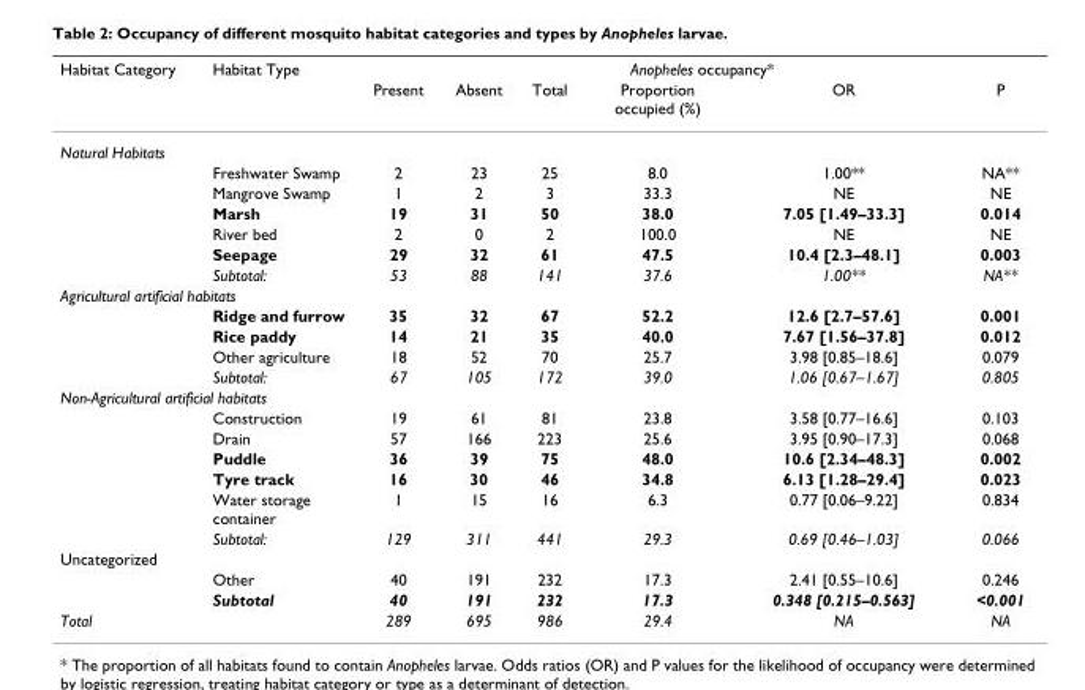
<table><thead><tr><td rowspan="2">Habitat Category</td><td rowspan="2">Habitat Type</td><td colspan="6">Anopheles occupancy*</td></tr><tr><td>Present</td><td>Absent</td><td>Total</td><td>Proportion occupied (%)</td><td>OR</td><td>P</td></tr></thead><tbody><tr><td colspan="8">Natural Habitats</td></tr><tr><td></td><td>Freshwater Swamp</td><td>2</td><td>23</td><td>25</td><td>8.0</td><td>1.00**</td><td>NA**</td></tr><tr><td></td><td>Mangrove Swamp</td><td>1</td><td>2</td><td>3</td><td>33.3</td><td>NE</td><td>NE</td></tr><tr><td></td><td>Marsh</td><td>19</td><td>31</td><td>50</td><td>38.0</td><td>7.05 [1.49–33.3]</td><td>0.014</td></tr><tr><td></td><td>River bed</td><td>2</td><td>0</td><td>2</td><td>100.0</td><td>NE</td><td>NE</td></tr><tr><td></td><td>Seepage</td><td>29</td><td>32</td><td>61</td><td>47.5</td><td>10.4 [2.3–48.1]</td><td>0.003</td></tr><tr><td></td><td>Subtotal:</td><td>53</td><td>88</td><td>141</td><td>37.6</td><td>1.00**</td><td>NA**</td></tr><tr><td colspan="8">Agricultural artificial habitats</td></tr><tr><td></td><td>Ridge and furrow</td><td>35</td><td>32</td><td>67</td><td>52.2</td><td>12.6 [2.7–57.6]</td><td>0.001</td></tr><tr><td></td><td>Rice paddy</td><td>14</td><td>21</td><td>35</td><td>40.0</td><td>7.67 [1.56–37.8]</td><td>0.012</td></tr><tr><td></td><td>Other agriculture</td><td>18</td><td>52</td><td>70</td><td>25.7</td><td>3.98 [0.85–18.6]</td><td>0.079</td></tr><tr><td></td><td>Subtotal:</td><td>67</td><td>105</td><td>172</td><td>39.0</td><td>1.06 [0.67–1.67]</td><td>0.805</td></tr><tr><td colspan="8">Non-Agricultural artificial habitats</td></tr><tr><td></td><td>Construction</td><td>19</td><td>61</td><td>81</td><td>23.8</td><td>3.58 [0.77–16.6]</td><td>0.103</td></tr><tr><td></td><td>Drain</td><td>57</td><td>166</td><td>223</td><td>25.6</td><td>3.95 [0.90–17.3]</td><td>0.068</td></tr><tr><td></td><td>Puddle</td><td>36</td><td>39</td><td>75</td><td>48.0</td><td>10.6 [2.34–48.3]</td><td>0.002</td></tr><tr><td></td><td>Tyre track</td><td>16</td><td>30</td><td>46</td><td>34.8</td><td>6.13 [1.28–29.4]</td><td>0.023</td></tr><tr><td></td><td>Water storage container</td><td>1</td><td>15</td><td>16</td><td>6.3</td><td>0.77 [0.06–9.22]</td><td>0.834</td></tr><tr><td></td><td>Subtotal:</td><td>129</td><td>311</td><td>441</td><td>29.3</td><td>0.69 [0.46–1.03]</td><td>0.066</td></tr><tr><td colspan="8">Uncategorized</td></tr><tr><td></td><td>Other</td><td>40</td><td>191</td><td>232</td><td>17.3</td><td>2.41 [0.55–10.6]</td><td>0.246</td></tr><tr><td></td><td>Subtotal</td><td>40</td><td>191</td><td>232</td><td>17.3</td><td>0.348 [0.215–0.563]</td><td>&lt;0.001</td></tr><tr><td>Total</td><td></td><td>289</td><td>695</td><td>986</td><td>29.4</td><td>NA</td><td>NA</td></tr></tbody></table>